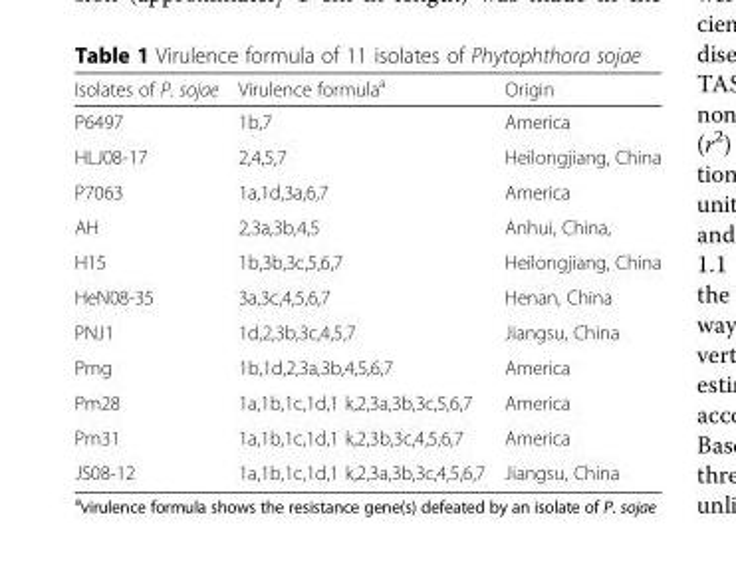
<table><thead><tr><td>Isolates of P. sojae</td><td>Virulence formula<sup>a</sup></td><td>Origin</td></tr></thead><tbody><tr><td>P6497</td><td>1b,7</td><td>America</td></tr><tr><td>HLJ08-17</td><td>2,4,5,7</td><td>Heilongjiang, China</td></tr><tr><td>P7063</td><td>1a,1d,3a,6,7</td><td>America</td></tr><tr><td>AH</td><td>2,3a,3b,4,5</td><td>Anhui, China,</td></tr><tr><td>H15</td><td>1b,3b,3c,5,6,7</td><td>Heilongjiang, China</td></tr><tr><td>HeN08-35</td><td>3a,3c,4,5,6,7</td><td>Henan, China</td></tr><tr><td>PNJ1</td><td>1d,2,3b,3c,4,5,7</td><td>Jiangsu, China</td></tr><tr><td>Pmg</td><td>1b,1d,2,3a,3b,4,5,6,7</td><td>America</td></tr><tr><td>Pm28</td><td>1a,1b,1c,1d,1 k,2,3a,3b,3c,5,6,7</td><td>America</td></tr><tr><td>Pm31</td><td>1a,1b,1c,1d,1 k,2,3b,3c,4,5,6,7</td><td>America</td></tr><tr><td>JS08-12</td><td>1a,1b,1c,1d,1 k,2,3a,3b,3c,4,5,6,7</td><td>Jiangsu, China</td></tr></tbody></table>